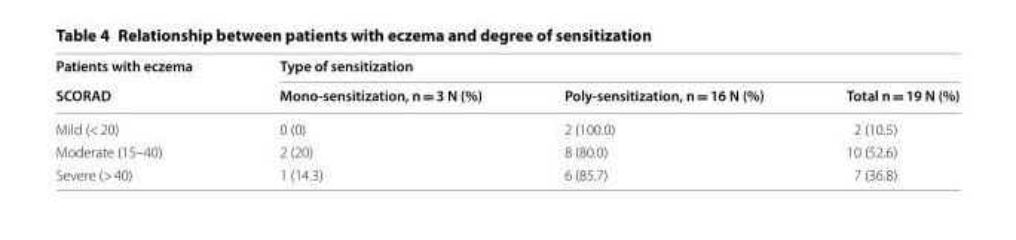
<table><thead><tr><td rowspan="2">Patients with eczema SCORAD</td><td colspan="3">Type of sensitization</td></tr><tr><td>Mono‑sensitization, n = 3 N (%)</td><td>Poly‑sensitization, n = 16 N (%)</td><td>Total n = 19 N (%)</td></tr></thead><tbody><tr><td>Mild (&lt; 20)</td><td>0 (0)</td><td>2 (100.0)</td><td>2 (10.5)</td></tr><tr><td>Moderate (15–40)</td><td>2 (20)</td><td>8 (80.0)</td><td>10 (52.6)</td></tr><tr><td>Severe (&gt; 40)</td><td>1 (14.3)</td><td>6 (85.7)</td><td>7 (36.8)</td></tr></tbody></table>